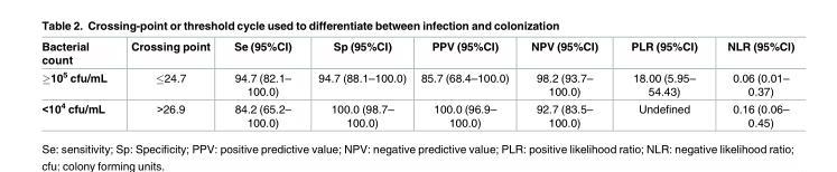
<table><thead><tr><td>Bacterial count</td><td>Crossing point</td><td>Se (95%CI)</td><td>Sp (95%CI)</td><td>PPV (95%CI)</td><td>NPV (95%CI)</td><td>PLR (95%CI)</td><td>NLR (95%CI)</td></tr></thead><tbody><tr><td>≥10<sup>5</sup> cfu/mL</td><td>≤24.7</td><td>94.7 (82.1– 100.0)</td><td>94.7 (88.1–100.0)</td><td>85.7 (68.4–100.0)</td><td>98.2 (93.7– 100.0)</td><td>18.00 (5.95– 54.43)</td><td>0.06 (0.01– 0.37)</td></tr><tr><td>&lt;10<sup>4</sup> cfu/mL</td><td>&gt;26.9</td><td>84.2 (65.2– 100.0)</td><td>100.0 (98.7– 100.0)</td><td>100.0 (96.9– 100.0)</td><td>92.7 (83.5– 100.0)</td><td>Undefined</td><td>0.16 (0.06– 0.45)</td></tr></tbody></table>